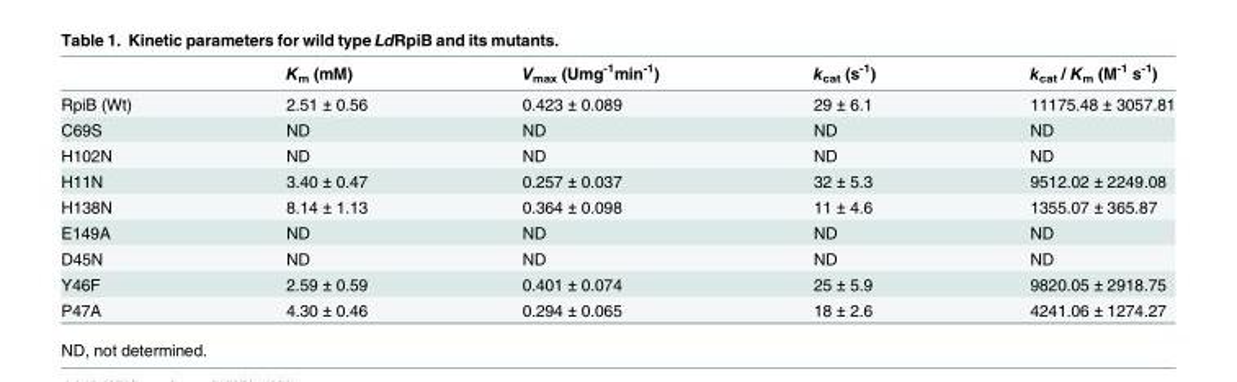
<table><thead><tr><td></td><td>K<sub>m</sub> (mM)</td><td>V<sub>max</sub> (Umg<sup>-1</sup>min<sup>-1</sup>)</td><td>k<sub>cat</sub> (s<sup>-1</sup>)</td><td>k<sub>cat</sub> / K<sub>m</sub> (M<sup>-1</sup> s<sup>-1</sup>)</td></tr></thead><tbody><tr><td>RpiB (Wt)</td><td>2.51 ± 0.56</td><td>0.423 ± 0.089</td><td>29 ± 6.1</td><td>11175.48 ± 3057.81</td></tr><tr><td>C69S</td><td>ND</td><td>ND</td><td>ND</td><td>ND</td></tr><tr><td>H102N</td><td>ND</td><td>ND</td><td>ND</td><td>ND</td></tr><tr><td>H11N</td><td>3.40 ± 0.47</td><td>0.257 ± 0.037</td><td>32 ± 5.3</td><td>9512.02 ± 2249.08</td></tr><tr><td>H138N</td><td>8.14 ± 1.13</td><td>0.364 ± 0.098</td><td>11 ± 4.6</td><td>1355.07 ± 365.87</td></tr><tr><td>E149A</td><td>ND</td><td>ND</td><td>ND</td><td>ND</td></tr><tr><td>D45N</td><td>ND</td><td>ND</td><td>ND</td><td>ND</td></tr><tr><td>Y46F</td><td>2.59 ± 0.59</td><td>0.401 ± 0.074</td><td>25 ± 5.9</td><td>9820.05 ± 2918.75</td></tr><tr><td>P47A</td><td>4.30 ± 0.46</td><td>0.294 ± 0.065</td><td>18 ± 2.6</td><td>4241.06 ± 1274.27</td></tr></tbody></table>